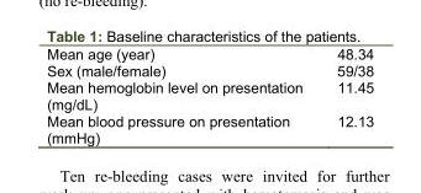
<table><tbody><tr><td>Mean age (year)</td><td>48.34</td></tr><tr><td>Sex (male/female)</td><td>59/38</td></tr><tr><td>Mean hemoglobin level on presentation (mg/dL)</td><td>11.45</td></tr><tr><td>Mean blood pressure on presentation (mmHg)</td><td>12.13</td></tr></tbody></table>